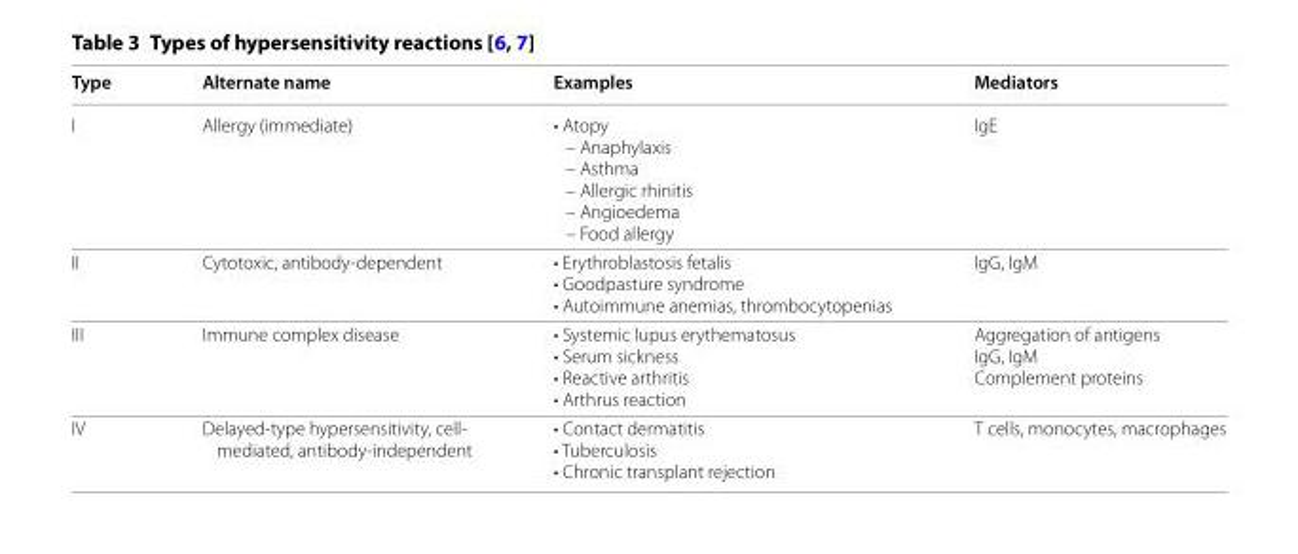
<table><thead><tr><td>Type</td><td>Alternate name</td><td>Examples</td><td>Mediators</td></tr></thead><tbody><tr><td>I</td><td>Allergy (immediate)</td><td>• Atopy – Anaphylaxis – Asthma – Allergic rhinitis – Angioedema – Food allergy</td><td>IgE</td></tr><tr><td>II</td><td>Cytotoxic, antibody-dependent</td><td>• Erythroblastosis fetalis • Goodpasture syndrome • Autoimmune anemias, thrombocytopenias</td><td>IgG, IgM</td></tr><tr><td>III</td><td>Immune complex disease</td><td>• Systemic lupus erythematosus • Serum sickness • Reactive arthritis • Arthrus reaction</td><td>Aggregation of antigens IgG, IgM Complement proteins</td></tr><tr><td>IV</td><td>Delayed-type hypersensitivity, cell- mediated, antibody-independent</td><td>• Contact dermatitis • Tuberculosis • Chronic transplant rejection</td><td>T cells, monocytes, macrophages</td></tr></tbody></table>